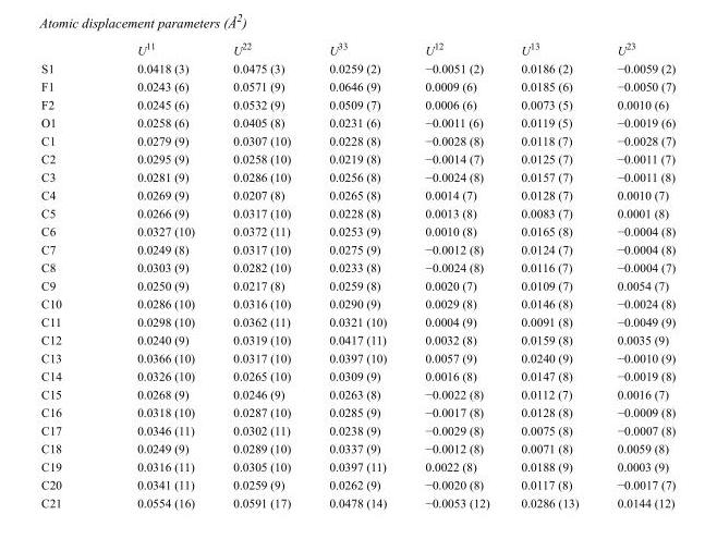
<table><thead><tr><td></td><td>U<sup>11</sup></td><td>U<sup>22</sup></td><td>U<sup>33</sup></td><td>U<sup>12</sup></td><td>U<sup>13</sup></td><td>U<sup>23</sup></td></tr></thead><tbody><tr><td>S1</td><td>0.0418 (3)</td><td>0.0475 (3)</td><td>0.0259 (2)</td><td>−0.0051 (2)</td><td>0.0186 (2)</td><td>−0.0059 (2)</td></tr><tr><td>F1</td><td>0.0243 (6)</td><td>0.0571 (9)</td><td>0.0646 (9)</td><td>0.0009 (6)</td><td>0.0185 (6)</td><td>−0.0050 (7)</td></tr><tr><td>F2</td><td>0.0245 (6)</td><td>0.0532 (9)</td><td>0.0509 (7)</td><td>0.0006 (6)</td><td>0.0073 (5)</td><td>0.0010 (6)</td></tr><tr><td>O1</td><td>0.0258 (6)</td><td>0.0405 (8)</td><td>0.0231 (6)</td><td>−0.0011 (6)</td><td>0.0119 (5)</td><td>−0.0019 (6)</td></tr><tr><td>C1</td><td>0.0279 (9)</td><td>0.0307 (10)</td><td>0.0228 (8)</td><td>−0.0028 (8)</td><td>0.0118 (7)</td><td>−0.0028 (7)</td></tr><tr><td>C2</td><td>0.0295 (9)</td><td>0.0258 (10)</td><td>0.0219 (8)</td><td>−0.0014 (7)</td><td>0.0125 (7)</td><td>−0.0011 (7)</td></tr><tr><td>C3</td><td>0.0281 (9)</td><td>0.0286 (10)</td><td>0.0256 (8)</td><td>−0.0024 (8)</td><td>0.0157 (7)</td><td>−0.0011 (8)</td></tr><tr><td>C4</td><td>0.0269 (9)</td><td>0.0207 (8)</td><td>0.0265 (8)</td><td>0.0014 (7)</td><td>0.0128 (7)</td><td>0.0010 (7)</td></tr><tr><td>C5</td><td>0.0266 (9)</td><td>0.0317 (10)</td><td>0.0228 (8)</td><td>0.0013 (8)</td><td>0.0083 (7)</td><td>0.0001 (8)</td></tr><tr><td>C6</td><td>0.0327 (10)</td><td>0.0372 (11)</td><td>0.0253 (9)</td><td>0.0010 (8)</td><td>0.0165 (8)</td><td>−0.0004 (8)</td></tr><tr><td>C7</td><td>0.0249 (8)</td><td>0.0317 (10)</td><td>0.0275 (9)</td><td>−0.0012 (8)</td><td>0.0124 (7)</td><td>−0.0004 (8)</td></tr><tr><td>C8</td><td>0.0303 (9)</td><td>0.0282 (10)</td><td>0.0233 (8)</td><td>−0.0024 (8)</td><td>0.0116 (7)</td><td>−0.0004 (7)</td></tr><tr><td>C9</td><td>0.0250 (9)</td><td>0.0217 (8)</td><td>0.0259 (8)</td><td>0.0020 (7)</td><td>0.0109 (7)</td><td>0.0054 (7)</td></tr><tr><td>C10</td><td>0.0286 (10)</td><td>0.0316 (10)</td><td>0.0290 (9)</td><td>0.0029 (8)</td><td>0.0146 (8)</td><td>−0.0024 (8)</td></tr><tr><td>C11</td><td>0.0298 (10)</td><td>0.0362 (11)</td><td>0.0321 (10)</td><td>0.0004 (9)</td><td>0.0091 (8)</td><td>−0.0049 (9)</td></tr><tr><td>C12</td><td>0.0240 (9)</td><td>0.0319 (10)</td><td>0.0417 (11)</td><td>0.0032 (8)</td><td>0.0159 (8)</td><td>0.0035 (9)</td></tr><tr><td>C13</td><td>0.0366 (10)</td><td>0.0317 (10)</td><td>0.0397 (10)</td><td>0.0057 (9)</td><td>0.0240 (9)</td><td>−0.0010 (9)</td></tr><tr><td>C14</td><td>0.0326 (10)</td><td>0.0265 (10)</td><td>0.0309 (9)</td><td>0.0016 (8)</td><td>0.0147 (8)</td><td>−0.0019 (8)</td></tr><tr><td>C15</td><td>0.0268 (9)</td><td>0.0246 (9)</td><td>0.0263 (8)</td><td>−0.0022 (8)</td><td>0.0112 (7)</td><td>0.0016 (7)</td></tr><tr><td>C16</td><td>0.0318 (10)</td><td>0.0287 (10)</td><td>0.0285 (9)</td><td>−0.0017 (8)</td><td>0.0128 (8)</td><td>−0.0009 (8)</td></tr><tr><td>C17</td><td>0.0346 (11)</td><td>0.0302 (11)</td><td>0.0238 (9)</td><td>−0.0029 (8)</td><td>0.0075 (8)</td><td>−0.0007 (8)</td></tr><tr><td>C18</td><td>0.0249 (9)</td><td>0.0289 (10)</td><td>0.0337 (9)</td><td>−0.0012 (8)</td><td>0.0071 (8)</td><td>0.0059 (8)</td></tr><tr><td>C19</td><td>0.0316 (11)</td><td>0.0305 (10)</td><td>0.0397 (11)</td><td>0.0022 (8)</td><td>0.0188 (9)</td><td>0.0003 (9)</td></tr><tr><td>C20</td><td>0.0341 (11)</td><td>0.0259 (9)</td><td>0.0262 (9)</td><td>−0.0020 (8)</td><td>0.0117 (8)</td><td>−0.0017 (7)</td></tr><tr><td>C21</td><td>0.0554 (16)</td><td>0.0591 (17)</td><td>0.0478 (14)</td><td>−0.0053 (12)</td><td>0.0286 (13)</td><td>0.0144 (12)</td></tr></tbody></table>